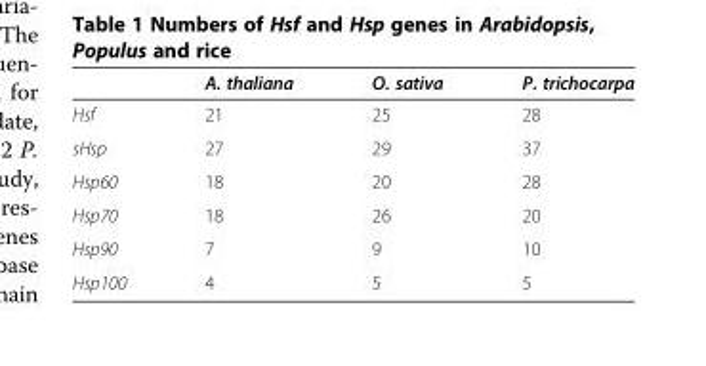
<table><thead><tr><td></td><td>A. thaliana</td><td>O. sativa</td><td>P. trichocarpa</td></tr></thead><tbody><tr><td>Hsf</td><td>21</td><td>25</td><td>28</td></tr><tr><td>sHsp</td><td>27</td><td>29</td><td>37</td></tr><tr><td>Hsp60</td><td>18</td><td>20</td><td>28</td></tr><tr><td>Hsp70</td><td>18</td><td>26</td><td>20</td></tr><tr><td>Hsp90</td><td>7</td><td>9</td><td>10</td></tr><tr><td>Hsp100</td><td>4</td><td>5</td><td>5</td></tr></tbody></table>